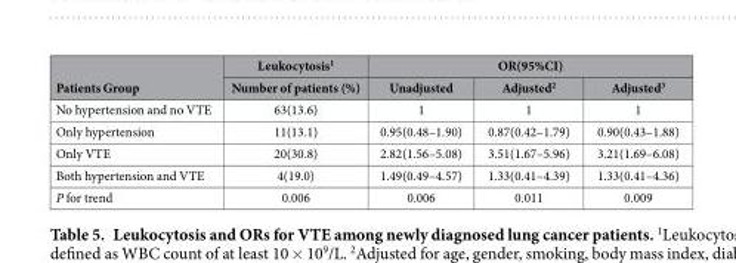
<table><thead><tr><td rowspan="2">Patients Group</td><td rowspan="2">Leukocytosis<sup>1</sup> Number of patients (%)</td><td colspan="3">OR(95%CI)</td></tr><tr><td>Unadjusted</td><td>Adjusted<sup>2</sup></td><td>Adjusted<sup>3</sup></td></tr></thead><tbody><tr><td>No hypertension and no VTE</td><td>63(13.6)</td><td>1</td><td>1</td><td>1</td></tr><tr><td>Only hypertension</td><td>11(13.1)</td><td>0.95(0.48–1.90)</td><td>0.87(0.42–1.79)</td><td>0.90(0.43–1.88)</td></tr><tr><td>Only VTE</td><td>20(30.8)</td><td>2.82(1.56–5.08)</td><td>3.51(1.67–5.96)</td><td>3.21(1.69–6.08)</td></tr><tr><td>Both hypertension and VTE</td><td>4(19.0)</td><td>1.49(0.49–4.57)</td><td>1.33(0.41–4.39)</td><td>1.33(0.41–4.36)</td></tr><tr><td>P for trend</td><td>0.006</td><td>0.006</td><td>0.011</td><td>0.009</td></tr></tbody></table>